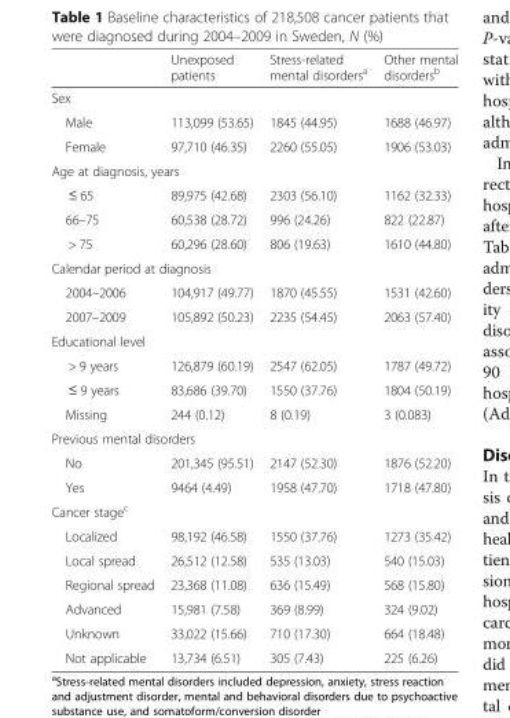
<table><thead><tr><td></td><td>Unexposed patients</td><td>Stress-related mental disorders<sup>a</sup></td><td>Other mental disorders<sup>b</sup></td></tr></thead><tbody><tr><td colspan="4">Sex</td></tr><tr><td>Male</td><td>113,099 (53.65)</td><td>1845 (44.95)</td><td>1688 (46.97)</td></tr><tr><td>Female</td><td>97,710 (46.35)</td><td>2260 (55.05)</td><td>1906 (53.03)</td></tr><tr><td colspan="4">Age at diagnosis, years</td></tr><tr><td>≤ 65</td><td>89,975 (42.68)</td><td>2303 (56.10)</td><td>1162 (32.33)</td></tr><tr><td>66–75</td><td>60,538 (28.72)</td><td>996 (24.26)</td><td>822 (22.87)</td></tr><tr><td>&gt; 75</td><td>60,296 (28.60)</td><td>806 (19.63)</td><td>1610 (44.80)</td></tr><tr><td colspan="4">Calendar period at diagnosis</td></tr><tr><td>2004–2006</td><td>104,917 (49.77)</td><td>1870 (45.55)</td><td>1531 (42.60)</td></tr><tr><td>2007–2009</td><td>105,892 (50.23)</td><td>2235 (54.45)</td><td>2063 (57.40)</td></tr><tr><td colspan="4">Educational level</td></tr><tr><td>&gt; 9 years</td><td>126,879 (60.19)</td><td>2547 (62.05)</td><td>1787 (49.72)</td></tr><tr><td>≤ 9 years</td><td>83,686 (39.70)</td><td>1550 (37.76)</td><td>1804 (50.19)</td></tr><tr><td>Missing</td><td>244 (0.12)</td><td>8 (0.19)</td><td>3 (0.083)</td></tr><tr><td colspan="4">Previous mental disorders</td></tr><tr><td>No</td><td>201,345 (95.51)</td><td>2147 (52.30)</td><td>1876 (52.20)</td></tr><tr><td>Yes</td><td>9464 (4.49)</td><td>1958 (47.70)</td><td>1718 (47.80)</td></tr><tr><td colspan="4">Cancer stage<sup>c</sup></td></tr><tr><td>Localized</td><td>98,192 (46.58)</td><td>1550 (37.76)</td><td>1273 (35.42)</td></tr><tr><td>Local spread</td><td>26,512 (12.58)</td><td>535 (13.03)</td><td>540 (15.03)</td></tr><tr><td>Regional spread</td><td>23,368 (11.08)</td><td>636 (15.49)</td><td>568 (15.80)</td></tr><tr><td>Advanced</td><td>15,981 (7.58)</td><td>369 (8.99)</td><td>324 (9.02)</td></tr><tr><td>Unknown</td><td>33,022 (15.66)</td><td>710 (17.30)</td><td>664 (18.48)</td></tr><tr><td>Not applicable</td><td>13,734 (6.51)</td><td>305 (7.43)</td><td>225 (6.26)</td></tr></tbody></table>